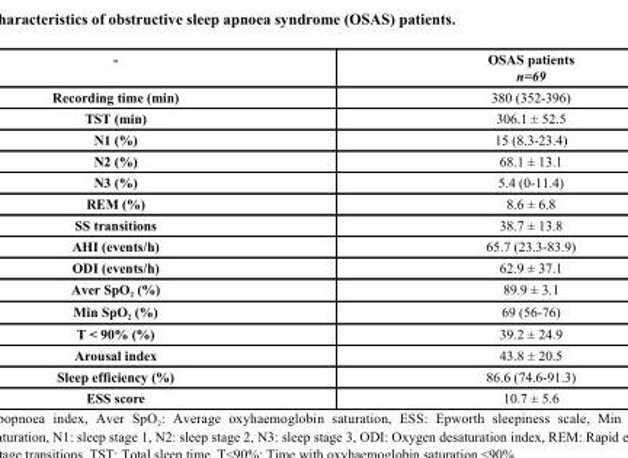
<table><thead><tr><td>-</td><td>OSAS patients n=69</td></tr></thead><tbody><tr><td>Recording time (min)</td><td>380 (352-396)</td></tr><tr><td>TST (min)</td><td>306.1 ± 52.5</td></tr><tr><td>N1 (%)</td><td>15 (8.3-23.4)</td></tr><tr><td>N2 (%)</td><td>68.1 ± 13.1</td></tr><tr><td>N3 (%)</td><td>5.4 (0-11.4)</td></tr><tr><td>REM (%)</td><td>8.6 ± 6.8</td></tr><tr><td>SS transitions</td><td>38.7 ± 13.8</td></tr><tr><td>AHI (events/h)</td><td>65.7 (23.3-83.9)</td></tr><tr><td>ODI (events/h)</td><td>62.9 ± 37.1</td></tr><tr><td>Aver SpO<sub>2</sub> (%)</td><td>89.9 ± 3.1</td></tr><tr><td>Min SpO<sub>2</sub> (%)</td><td>69 (56-76)</td></tr><tr><td>T &lt; 90% (%)</td><td>39.2 ± 24.9</td></tr><tr><td>Arousal index</td><td>43.8 ± 20.5</td></tr><tr><td>Sleep efficiency (%)</td><td>86.6 (74.6-91.3)</td></tr><tr><td>ESS score</td><td>10.7 ± 5.6</td></tr></tbody></table>